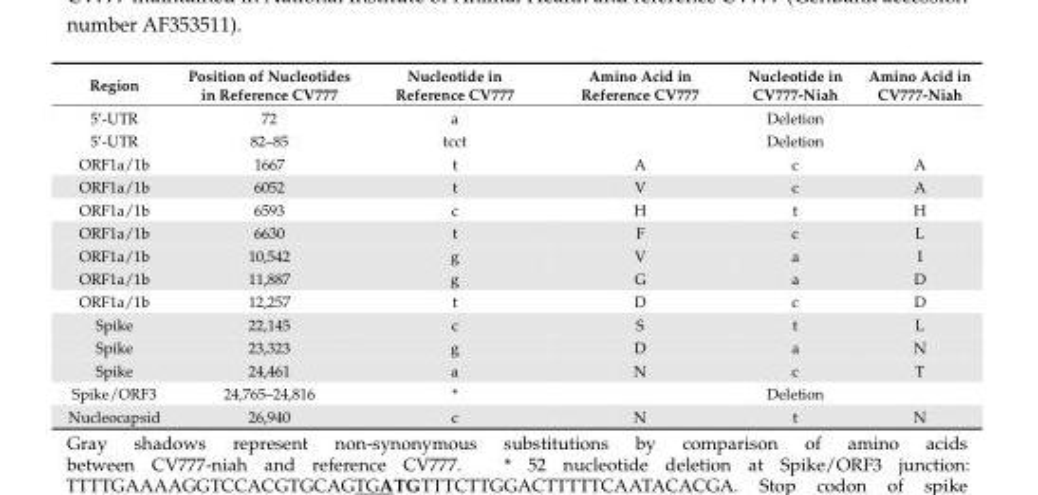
<table><thead><tr><td>Region</td><td>Position of Nucleotides in Reference CV777</td><td>Nucleotide in Reference CV777</td><td>Amino Acid in Reference CV777</td><td>Nucleotide in CV777-Niah</td><td>Amino Acid in CV777-Niah</td></tr></thead><tbody><tr><td>5’-UTR</td><td>72</td><td>a</td><td></td><td>Deletion</td><td></td></tr><tr><td>5’-UTR</td><td>82–85</td><td>tcct</td><td></td><td>Deletion</td><td></td></tr><tr><td>ORF1a/1b</td><td>1667</td><td>t</td><td>A</td><td>c</td><td>A</td></tr><tr><td>ORF1a/1b</td><td>6052</td><td>t</td><td>V</td><td>c</td><td>A</td></tr><tr><td>ORF1a/1b</td><td>6593</td><td>c</td><td>H</td><td>t</td><td>H</td></tr><tr><td>ORF1a/1b</td><td>6630</td><td>t</td><td>F</td><td>c</td><td>L</td></tr><tr><td>ORF1a/1b</td><td>10,542</td><td>g</td><td>V</td><td>a</td><td>I</td></tr><tr><td>ORF1a/1b</td><td>11,887</td><td>g</td><td>G</td><td>a</td><td>D</td></tr><tr><td>ORF1a/1b</td><td>12,257</td><td>t</td><td>D</td><td>c</td><td>D</td></tr><tr><td>Spike</td><td>22,145</td><td>c</td><td>S</td><td>t</td><td>L</td></tr><tr><td>Spike</td><td>23,323</td><td>g</td><td>D</td><td>a</td><td>N</td></tr><tr><td>Spike</td><td>24,461</td><td>a</td><td>N</td><td>c</td><td>T</td></tr><tr><td>Spike/ORF3</td><td>24,765–24,816</td><td>*</td><td></td><td>Deletion</td><td></td></tr><tr><td>Nucleocapsid</td><td>26,940</td><td>c</td><td>N</td><td>t</td><td>N</td></tr></tbody></table>